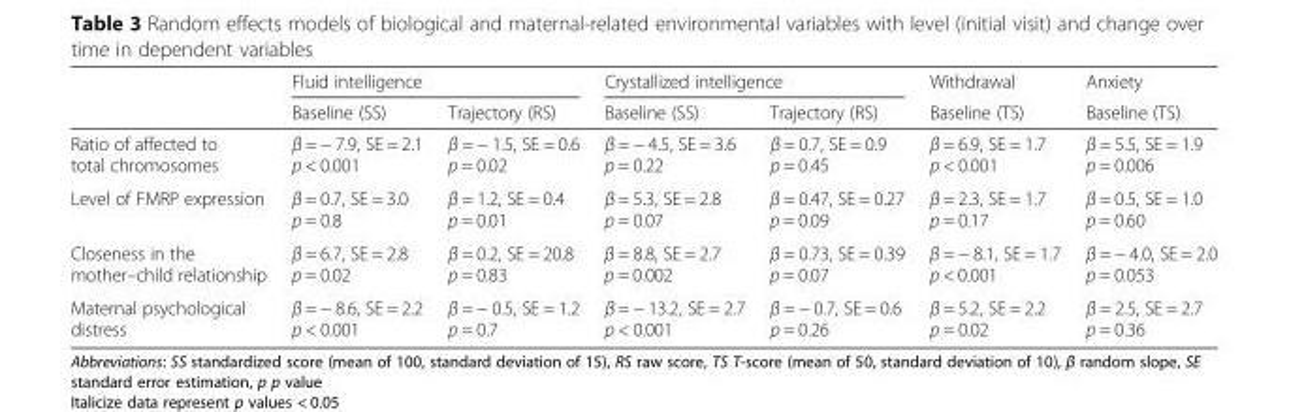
<table><thead><tr><td rowspan="2"></td><td colspan="2">Fluid intelligence</td><td colspan="2">Crystallized intelligence</td><td rowspan="2">Withdrawal Baseline (TS)</td><td rowspan="2">Anxiety Baseline (TS)</td></tr><tr><td>Baseline (SS)</td><td>Trajectory (RS)</td><td>Baseline (SS)</td><td>Trajectory (RS)</td></tr></thead><tbody><tr><td>Ratio of affected to total chromosomes</td><td>β = − 7.9, SE = 2.1 p &lt; 0.001</td><td>β = − 1.5, SE = 0.6 p = 0.02</td><td>β = − 4.5, SE = 3.6 p = 0.22</td><td>β = 0.7, SE = 0.9 p = 0.45</td><td>β = 6.9, SE = 1.7 p &lt; 0.001</td><td>β = 5.5, SE = 1.9 p = 0.006</td></tr><tr><td>Level of FMRP expression</td><td>β = 0.7, SE = 3.0 p = 0.8</td><td>β = 1.2, SE = 0.4 p = 0.01</td><td>β = 5.3, SE = 2.8 p = 0.07</td><td>β = 0.47, SE = 0.27 p = 0.09</td><td>β = 2.3, SE = 1.7 p = 0.17</td><td>β = 0.5, SE = 1.0 p = 0.60</td></tr><tr><td>Closeness in the mother–child relationship</td><td>β = 6.7, SE = 2.8 p = 0.02</td><td>β = 0.2, SE = 20.8 p = 0.83</td><td>β = 8.8, SE = 2.7 p = 0.002</td><td>β = 0.73, SE = 0.39 p = 0.07</td><td>β = − 8.1, SE = 1.7 p &lt; 0.001</td><td>β = − 4.0, SE = 2.0 p = 0.053</td></tr><tr><td>Maternal psychological distress</td><td>β = − 8.6, SE = 2.2 p &lt; 0.001</td><td>β = − 0.5, SE = 1.2 p = 0.7</td><td>β = − 13.2, SE = 2.7 p &lt; 0.001</td><td>β = − 0.7, SE = 0.6 p = 0.26</td><td>β = 5.2, SE = 2.2 p = 0.02</td><td>β = 2.5, SE = 2.7 p = 0.36</td></tr></tbody></table>